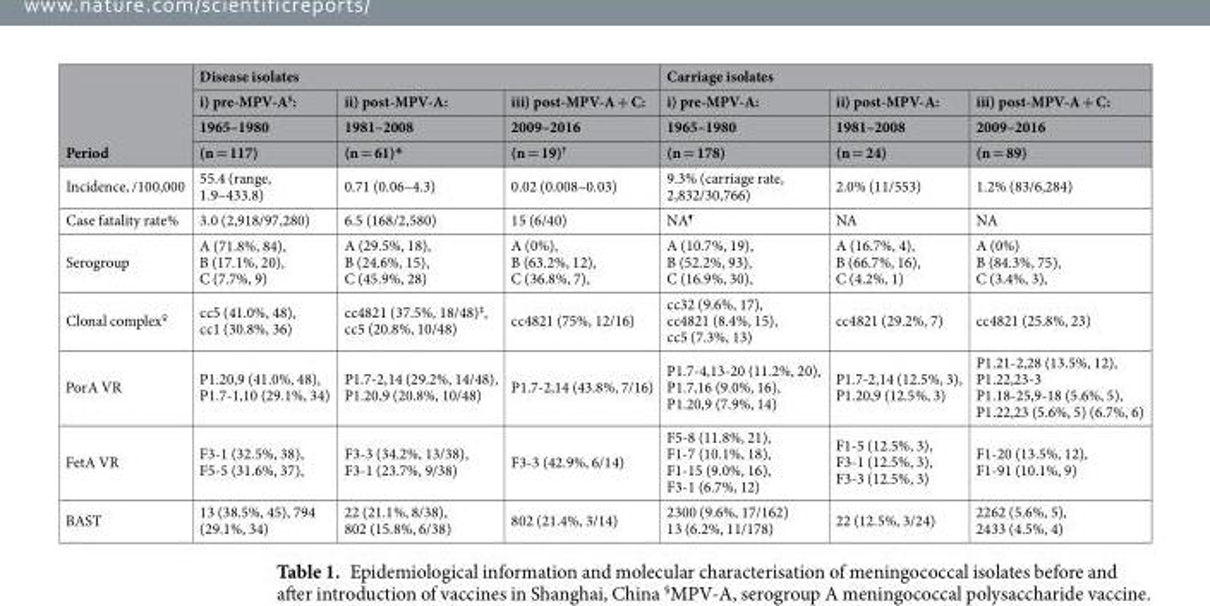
<table><thead><tr><td rowspan="4">Period</td><td colspan="3">Disease isolates</td><td colspan="3">Carriage isolates</td></tr><tr><td rowspan="3">i) pre-MPV-A<sup>§</sup>: 1965–1980 (n = 117)</td><td rowspan="3">ii) post-MPV-A: 1981–2008 (n = 61)*</td><td rowspan="3">iii) post-MPV-A + C: 2009–2016 (n = 19)<sup>†</sup></td><td rowspan="3">i) pre-MPV-A: 1965–1980 (n = 178)</td><td rowspan="3">ii) post-MPV-A: 1981–2008 (n = 24)</td><td rowspan="3">iii) post-MPV-A + C: 2009–2016 (n = 89)</td></tr><tr></tr><tr></tr></thead><tbody><tr><td>Incidence, /100,000</td><td>55.4 (range, 1.9–433.8)</td><td>0.71 (0.06–4.3)</td><td>0.02 (0.008–0.03)</td><td>9.3% (carriage rate, 2,832/30,766)</td><td>2.0% (11/553)</td><td>1.2% (83/6,284)</td></tr><tr><td>Case fatality rate%</td><td>3.0 (2,918/97,280)</td><td>6.5 (168/2,580)</td><td>15 (6/40)</td><td>NA<sup>¶</sup></td><td>NA</td><td>NA</td></tr><tr><td>Serogroup</td><td>A (71.8%, 84), B (17.1%, 20), C (7.7%, 9)</td><td>A (29.5%, 18), B (24.6%, 15), C (45.9%, 28)</td><td>A (0%), B (63.2%, 12), C (36.8%, 7),</td><td>A (10.7%, 19), B (52.2%, 93), C (16.9%, 30),</td><td>A (16.7%, 4), B (66.7%, 16), C (4.2%, 1)</td><td>A (0%) B (84.3%, 75), C (3.4%, 3),</td></tr><tr><td>Clonal complex<sup>♀</sup></td><td>cc5 (41.0%, 48), cc1 (30.8%, 36)</td><td>cc4821 (37.5%, 18/48)<sup>‡</sup>, cc5 (20.8%, 10/48)</td><td>cc4821 (75%, 12/16)</td><td>cc32 (9.6%, 17), cc4821 (8.4%, 15), cc5 (7.3%, 13)</td><td>cc4821 (29.2%, 7)</td><td>cc4821 (25.8%, 23)</td></tr><tr><td>PorA VR</td><td>P1.20,9 (41.0%, 48), P1.7-1,10 (29.1%, 34)</td><td>P1.7-2,14 (29.2%, 14/48), P1.20,9 (20.8%, 10/48)</td><td>P1.7-2,14 (43.8%, 7/16)</td><td>P1.7-4,13-20 (11.2%, 20), P1.7,16 (9.0%, 16), P1.20,9 (7.9%, 14)</td><td>P1.7-2,14 (12.5%, 3), P1.20,9 (12.5%, 3)</td><td>P1.21-2,28 (13.5%, 12), P1.22,23-3 P1.18-25,9-18 (5.6%, 5), P1.22,23 (5.6%, 5) (6.7%, 6)</td></tr><tr><td>FetA VR</td><td>F3-1 (32.5%, 38), F5-5 (31.6%, 37),</td><td>F3-3 (34.2%, 13/38), F3-1 (23.7%, 9/38)</td><td>F3-3 (42.9%, 6/14)</td><td>F5-8 (11.8%, 21), F1-7 (10.1%, 18), F1-15 (9.0%, 16), F3-1 (6.7%, 12)</td><td>F1-5 (12.5%, 3), F3-1 (12.5%, 3), F3-3 (12.5%, 3)</td><td>F1-20 (13.5%, 12), F1-91 (10.1%, 9)</td></tr><tr><td>BAST</td><td>13 (38.5%, 45), 794 (29.1%, 34)</td><td>22 (21.1%, 8/38), 802 (15.8%, 6/38)</td><td>802 (21.4%, 3/14)</td><td>2300 (9.6%, 17/162) 13 (6.2%, 11/178)</td><td>22 (12.5%, 3/24)</td><td>2262 (5.6%, 5), 2433 (4.5%, 4)</td></tr></tbody></table>